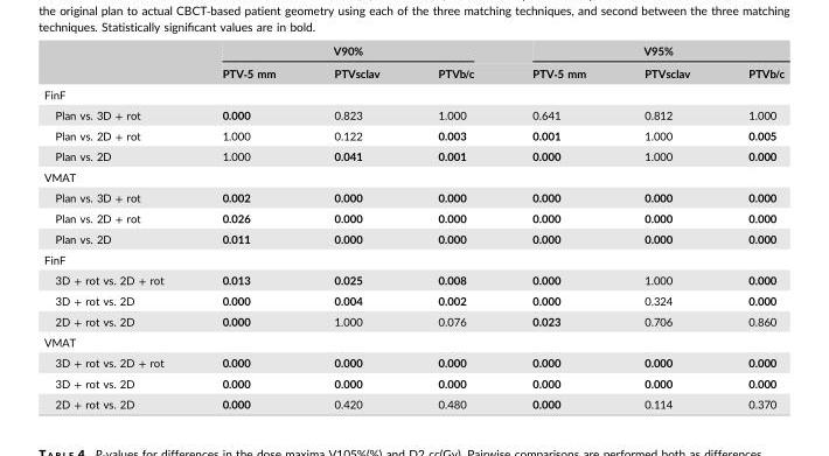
<table><thead><tr><td rowspan="2"></td><td colspan="3">V90%</td><td colspan="3">V95%</td></tr><tr><td>PTV‐5 mm</td><td>PTVsclav</td><td>PTVb/c</td><td>PTV‐5 mm</td><td>PTVsclav</td><td>PTVb/c</td></tr></thead><tbody><tr><td colspan="7">FinF</td></tr><tr><td>Plan vs. 3D + rot</td><td>0.000</td><td>0.823</td><td>1.000</td><td>0.641</td><td>0.812</td><td>1.000</td></tr><tr><td>Plan vs. 2D + rot</td><td>1.000</td><td>0.122</td><td>0.003</td><td>0.001</td><td>1.000</td><td>0.005</td></tr><tr><td>Plan vs. 2D</td><td>1.000</td><td>0.041</td><td>0.001</td><td>0.000</td><td>1.000</td><td>0.000</td></tr><tr><td colspan="7">VMAT</td></tr><tr><td>Plan vs. 3D + rot</td><td>0.002</td><td>0.000</td><td>0.000</td><td>0.000</td><td>0.000</td><td>0.000</td></tr><tr><td>Plan vs. 2D + rot</td><td>0.026</td><td>0.000</td><td>0.000</td><td>0.000</td><td>0.000</td><td>0.000</td></tr><tr><td>Plan vs. 2D</td><td>0.011</td><td>0.000</td><td>0.000</td><td>0.000</td><td>0.000</td><td>0.000</td></tr><tr><td colspan="7">FinF</td></tr><tr><td>3D + rot vs. 2D + rot</td><td>0.013</td><td>0.025</td><td>0.008</td><td>0.000</td><td>1.000</td><td>0.000</td></tr><tr><td>3D + rot vs. 2D</td><td>0.000</td><td>0.004</td><td>0.002</td><td>0.000</td><td>0.324</td><td>0.000</td></tr><tr><td>2D + rot vs. 2D</td><td>0.000</td><td>1.000</td><td>0.076</td><td>0.023</td><td>0.706</td><td>0.860</td></tr><tr><td colspan="7">VMAT</td></tr><tr><td>3D + rot vs. 2D + rot</td><td>0.000</td><td>0.000</td><td>0.000</td><td>0.000</td><td>0.000</td><td>0.000</td></tr><tr><td>3D + rot vs. 2D</td><td>0.000</td><td>0.000</td><td>0.000</td><td>0.000</td><td>0.000</td><td>0.000</td></tr><tr><td>2D + rot vs. 2D</td><td>0.000</td><td>0.420</td><td>0.480</td><td>0.000</td><td>0.114</td><td>0.370</td></tr></tbody></table>